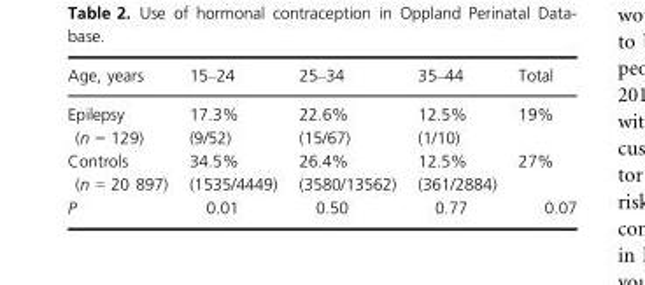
<table><thead><tr><td>Age, years</td><td>15–24</td><td>25–34</td><td>35–44</td><td>Total</td></tr></thead><tbody><tr><td>Epilepsy (n = 129)</td><td>17.3% (9/52)</td><td>22.6% (15/67)</td><td>12.5% (1/10)</td><td>19%</td></tr><tr><td>Controls (n = 20 897)</td><td>34.5% (1535/4449)</td><td>26.4% (3580/13562)</td><td>12.5% (361/2884)</td><td>27%</td></tr><tr><td>P</td><td>0.01</td><td>0.50</td><td>0.77</td><td>0.07</td></tr></tbody></table>